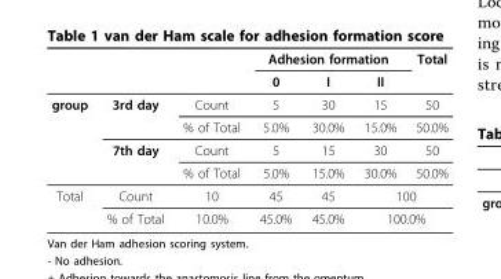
<table><thead><tr><td rowspan="2"></td><td rowspan="2"></td><td rowspan="2"></td><td colspan="3">Adhesion formation</td><td rowspan="2">Total</td></tr><tr><td>0</td><td>I</td><td>II</td></tr></thead><tbody><tr><td rowspan="4">group</td><td>3rd day</td><td>Count</td><td>5</td><td>30</td><td>15</td><td>50</td></tr><tr><td></td><td>% of Total</td><td>5.0%</td><td>30.0%</td><td>15.0%</td><td>50.0%</td></tr><tr><td>7th day</td><td>Count</td><td>5</td><td>15</td><td>30</td><td>50</td></tr><tr><td></td><td>% of Total</td><td>5.0%</td><td>15.0%</td><td>30.0%</td><td>50.0%</td></tr><tr><td rowspan="2">Total</td><td>Count</td><td>10</td><td>45</td><td>45</td><td colspan="2">100</td></tr><tr><td>% of Total</td><td>10.0%</td><td>45.0%</td><td>45.0%</td><td colspan="2">100.0%</td></tr></tbody></table>